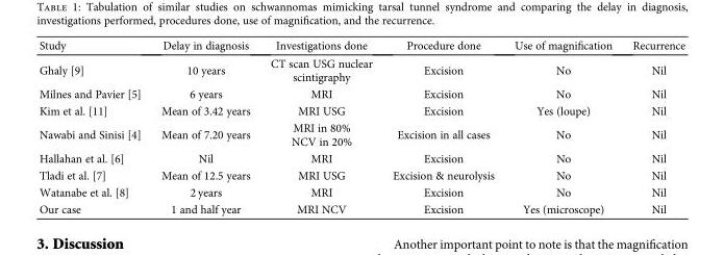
<table><thead><tr><td>Study</td><td>Delay in diagnosis</td><td>Investigations done</td><td>Procedure done</td><td>Use of magnification</td><td>Recurrence</td></tr></thead><tbody><tr><td>Ghaly [9]</td><td>10 years</td><td>CT scan USG nuclear scintigraphy</td><td>Excision</td><td>No</td><td>Nil</td></tr><tr><td>Milnes and Pavier [5]</td><td>6 years</td><td>MRI</td><td>Excision</td><td>No</td><td>Nil</td></tr><tr><td>Kim et al. [11]</td><td>Mean of 3.42 years</td><td>MRI USG</td><td>Excision</td><td>Yes (loupe)</td><td>Nil</td></tr><tr><td>Nawabi and Sinisi [4]</td><td>Mean of 7.20 years</td><td>MRI in 80% NCV in 20%</td><td>Excision in all cases</td><td>No</td><td>Nil</td></tr><tr><td>Hallahan et al. [6]</td><td>Nil</td><td>MRI</td><td>Excision</td><td>No</td><td>Nil</td></tr><tr><td>Tladi et al. [7]</td><td>Mean of 12.5 years</td><td>MRI USG</td><td>Excision &amp; neurolysis</td><td>No</td><td>Nil</td></tr><tr><td>Watanabe et al. [8]</td><td>2 years</td><td>MRI</td><td>Excision</td><td>No</td><td>Nil</td></tr><tr><td>Our case</td><td>1 and half year</td><td>MRI NCV</td><td>Excision</td><td>Yes (microscope)</td><td>Nil</td></tr></tbody></table>